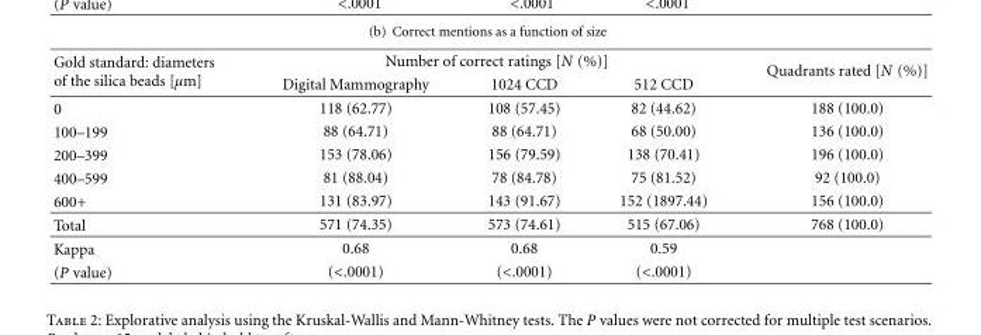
<table><tbody><tr><td rowspan="2">Gold standard: diameters of the silica beads [μm]</td><td colspan="3">Number of correct ratings [N (%)]</td><td rowspan="2">Quadrants rated [N (%)]</td></tr><tr><td>Digital Mammography</td><td>1024 CCD</td><td>512 CCD</td></tr><tr><td>0</td><td>118 (62.77)</td><td>108 (57.45)</td><td>82 (44.62)</td><td>188 (100.0)</td></tr><tr><td>100–199</td><td>88 (64.71)</td><td>88 (64.71)</td><td>68 (50.00)</td><td>136 (100.0)</td></tr><tr><td>200–399</td><td>153 (78.06)</td><td>156 (79.59)</td><td>138 (70.41)</td><td>196 (100.0)</td></tr><tr><td>400–599</td><td>81 (88.04)</td><td>78 (84.78)</td><td>75 (81.52)</td><td>92 (100.0)</td></tr><tr><td>600+</td><td>131 (83.97)</td><td>143 (91.67)</td><td>152 (1897.44)</td><td>156 (100.0)</td></tr><tr><td>Total</td><td>571 (74.35)</td><td>573 (74.61)</td><td>515 (67.06)</td><td>768 (100.0)</td></tr><tr><td>Kappa</td><td>0.68</td><td>0.68</td><td>0.59</td><td></td></tr><tr><td>(P value)</td><td>(&lt;.0001)</td><td>(&lt;.0001)</td><td>(&lt;.0001)</td><td></td></tr></tbody></table>